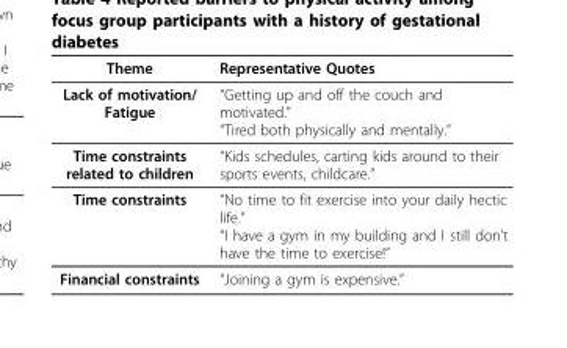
<table><thead><tr><td>Theme</td><td>Representative Quotes</td></tr></thead><tbody><tr><td>Lack of motivation/ Fatigue</td><td>“Getting up and off the couch and motivated.” “Tired both physically and mentally.”</td></tr><tr><td>Time constraints related to children</td><td>“Kids schedules, carting kids around to their sports events, childcare.”</td></tr><tr><td>Time constraints</td><td>“No time to fit exercise into your daily hectic life.” “I have a gym in my building and I still don’t have the time to exercise!”</td></tr><tr><td>Financial constraints</td><td>“Joining a gym is expensive.”</td></tr></tbody></table>